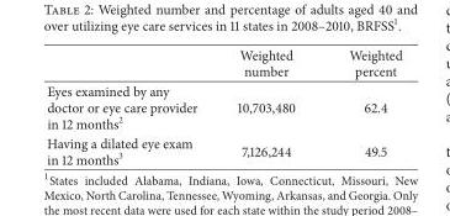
<table><thead><tr><td></td><td>Weighted number</td><td>Weighted percent</td></tr></thead><tbody><tr><td>Eyes examined by any doctor or eye care provider in 12 months<sup>2</sup></td><td>10,703,480</td><td>62.4</td></tr><tr><td>Having a dilated eye exam in 12 months<sup>3</sup></td><td>7,126,244</td><td>49.5</td></tr></tbody></table>